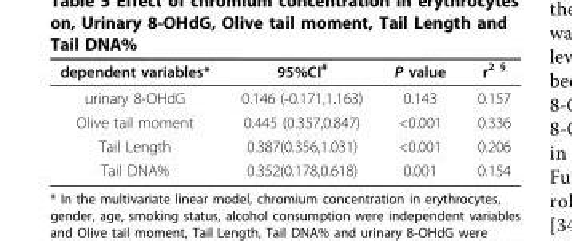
<table><thead><tr><td>dependent variables*</td><td>95%CI<sup>#</sup></td><td>P value</td><td>r<sup>2 §</sup></td></tr></thead><tbody><tr><td>urinary 8-OHdG</td><td>0.146 (-0.171,1.163)</td><td>0.143</td><td>0.157</td></tr><tr><td>Olive tail moment</td><td>0.445 (0.357,0.847)</td><td>&lt;0.001</td><td>0.336</td></tr><tr><td>Tail Length</td><td>0.387(0.356,1.031)</td><td>&lt;0.001</td><td>0.206</td></tr><tr><td>Tail DNA%</td><td>0.352(0.178,0.618)</td><td>0.001</td><td>0.154</td></tr></tbody></table>